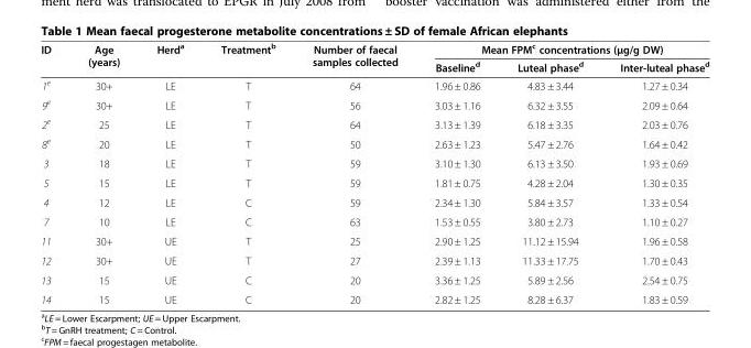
<table><thead><tr><td rowspan="2">ID</td><td rowspan="2">Age (years)</td><td rowspan="2">Herd<sup>a</sup></td><td rowspan="2">Treatment<sup>b</sup></td><td rowspan="2">Number of faecal samples collected</td><td colspan="3">Mean FPM<sup>c</sup> concentrations (μg/g DW)</td></tr><tr><td>Baseline<sup>d</sup></td><td>Luteal phase<sup>d</sup></td><td>Inter-luteal phase<sup>d</sup></td></tr></thead><tbody><tr><td>1<sup>e</sup></td><td>30+</td><td>LE</td><td>T</td><td>64</td><td>1.96 ± 0.86</td><td>4.83 ± 3.44</td><td>1.27 ± 0.34</td></tr><tr><td>9<sup>e</sup></td><td>30+</td><td>LE</td><td>T</td><td>56</td><td>3.03 ± 1.16</td><td>6.32 ± 3.55</td><td>2.09 ± 0.64</td></tr><tr><td>2<sup>e</sup></td><td>25</td><td>LE</td><td>T</td><td>64</td><td>3.13 ± 1.39</td><td>6.18 ± 3.35</td><td>2.03 ± 0.76</td></tr><tr><td>8<sup>e</sup></td><td>20</td><td>LE</td><td>T</td><td>50</td><td>2.63 ± 1.23</td><td>5.47 ± 2.76</td><td>1.64 ± 0.42</td></tr><tr><td>3</td><td>18</td><td>LE</td><td>T</td><td>59</td><td>3.10 ± 1.30</td><td>6.13 ± 3.50</td><td>1.93 ± 0.69</td></tr><tr><td>5</td><td>15</td><td>LE</td><td>T</td><td>59</td><td>1.81 ± 0.75</td><td>4.28 ± 2.04</td><td>1.30 ± 0.35</td></tr><tr><td>4</td><td>12</td><td>LE</td><td>C</td><td>59</td><td>2.34 ± 1.30</td><td>5.84 ± 3.57</td><td>1.33 ± 0.54</td></tr><tr><td>7</td><td>10</td><td>LE</td><td>C</td><td>63</td><td>1.53 ± 0.55</td><td>3.80 ± 2.73</td><td>1.10 ± 0.27</td></tr><tr><td>11</td><td>30+</td><td>UE</td><td>T</td><td>25</td><td>2.90 ± 1.25</td><td>11.12 ± 15.94</td><td>1.96 ± 0.58</td></tr><tr><td>12</td><td>30+</td><td>UE</td><td>T</td><td>27</td><td>2.39 ± 1.13</td><td>11.33 ± 17.75</td><td>1.70 ± 0.43</td></tr><tr><td>13</td><td>15</td><td>UE</td><td>C</td><td>20</td><td>3.36 ± 1.25</td><td>5.89 ± 2.56</td><td>2.54 ± 0.75</td></tr><tr><td>14</td><td>15</td><td>UE</td><td>C</td><td>20</td><td>2.82 ± 1.25</td><td>8.28 ± 6.37</td><td>1.83 ± 0.59</td></tr></tbody></table>